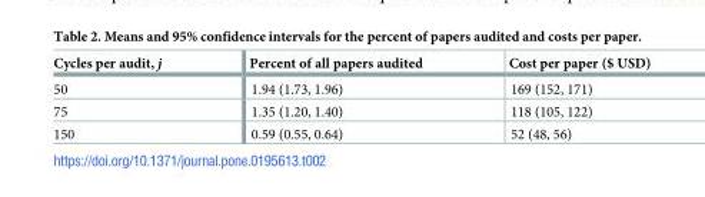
<table><thead><tr><td>Cycles per audit, j</td><td>Percent of all papers audited</td><td>Cost per paper ($ USD)</td></tr></thead><tbody><tr><td>50</td><td>1.94 (1.73, 1.96)</td><td>169 (152, 171)</td></tr><tr><td>75</td><td>1.35 (1.20, 1.40)</td><td>118 (105, 122)</td></tr><tr><td>150</td><td>0.59 (0.55, 0.64)</td><td>52 (48, 56)</td></tr></tbody></table>